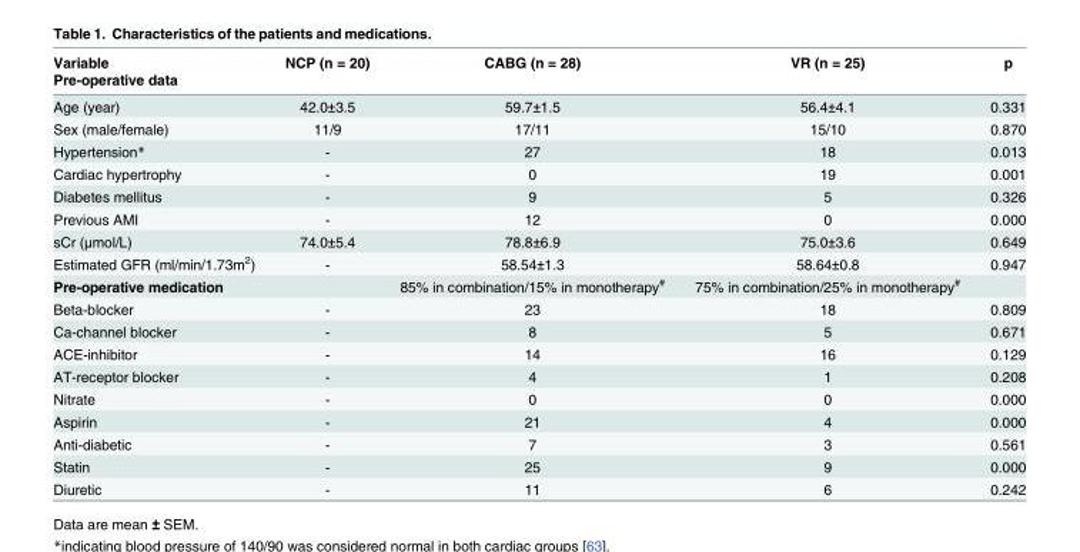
<table><thead><tr><td rowspan="2">Variable Pre-operative data</td><td rowspan="2">NCP (n = 20)</td><td rowspan="2">CABG (n = 28)</td><td rowspan="2">VR (n = 25)</td><td rowspan="2">p</td></tr><tr></tr></thead><tbody><tr><td>Age (year)</td><td>42.0±3.5</td><td>59.7±1.5</td><td>56.4±4.1</td><td>0.331</td></tr><tr><td>Sex (male/female)</td><td>11/9</td><td>17/11</td><td>15/10</td><td>0.870</td></tr><tr><td>Hypertension*</td><td>-</td><td>27</td><td>18</td><td>0.013</td></tr><tr><td>Cardiac hypertrophy</td><td>-</td><td>0</td><td>19</td><td>0.001</td></tr><tr><td>Diabetes mellitus</td><td>-</td><td>9</td><td>5</td><td>0.326</td></tr><tr><td>Previous AMI</td><td>-</td><td>12</td><td>0</td><td>0.000</td></tr><tr><td>sCr (μmol/L)</td><td>74.0±5.4</td><td>78.8±6.9</td><td>75.0±3.6</td><td>0.649</td></tr><tr><td>Estimated GFR (ml/min/1.73m<sup>2</sup>)</td><td>-</td><td>58.54±1.3</td><td>58.64±0.8</td><td>0.947</td></tr><tr><td>Pre-operative medication</td><td></td><td>85% in combination/15% in monotherapy<sup>#</sup></td><td>75% in combination/25% in monotherapy<sup>#</sup></td><td></td></tr><tr><td>Beta-blocker</td><td>-</td><td>23</td><td>18</td><td>0.809</td></tr><tr><td>Ca-channel blocker</td><td>-</td><td>8</td><td>5</td><td>0.671</td></tr><tr><td>ACE-inhibitor</td><td>-</td><td>14</td><td>16</td><td>0.129</td></tr><tr><td>AT-receptor blocker</td><td>-</td><td>4</td><td>1</td><td>0.208</td></tr><tr><td>Nitrate</td><td>-</td><td>0</td><td>0</td><td>0.000</td></tr><tr><td>Aspirin</td><td>-</td><td>21</td><td>4</td><td>0.000</td></tr><tr><td>Anti-diabetic</td><td>-</td><td>7</td><td>3</td><td>0.561</td></tr><tr><td>Statin</td><td>-</td><td>25</td><td>9</td><td>0.000</td></tr><tr><td>Diuretic</td><td>-</td><td>11</td><td>6</td><td>0.242</td></tr></tbody></table>